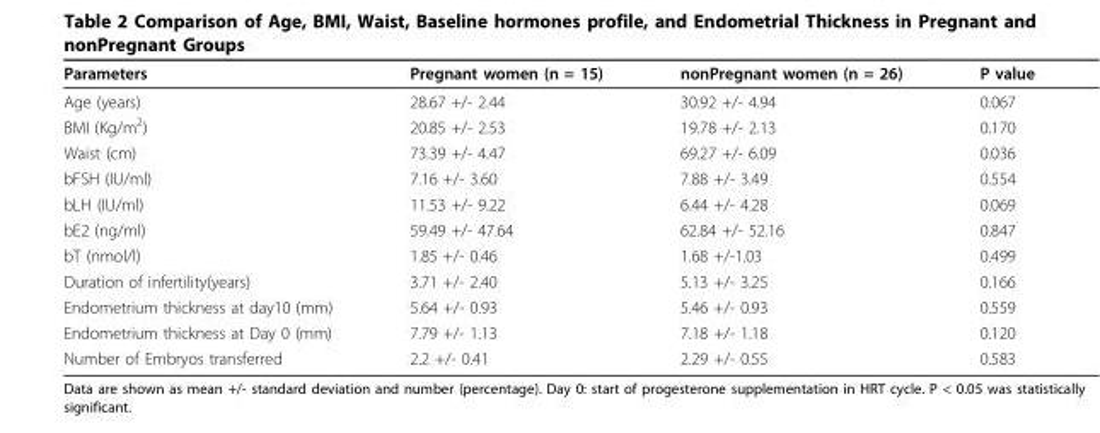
<table><thead><tr><td>Parameters</td><td>Pregnant women (n = 15)</td><td>nonPregnant women (n = 26)</td><td>P value</td></tr></thead><tbody><tr><td>Age (years)</td><td>28.67 +/- 2.44</td><td>30.92 +/- 4.94</td><td>0.067</td></tr><tr><td>BMI (Kg/m<sup>2</sup>)</td><td>20.85 +/- 2.53</td><td>19.78 +/- 2.13</td><td>0.170</td></tr><tr><td>Waist (cm)</td><td>73.39 +/- 4.47</td><td>69.27 +/- 6.09</td><td>0.036</td></tr><tr><td>bFSH (IU/ml)</td><td>7.16 +/- 3.60</td><td>7.88 +/- 3.49</td><td>0.554</td></tr><tr><td>bLH (IU/ml)</td><td>11.53 +/- 9.22</td><td>6.44 +/- 4.28</td><td>0.069</td></tr><tr><td>bE2 (ng/ml)</td><td>59.49 +/- 47.64</td><td>62.84 +/- 52.16</td><td>0.847</td></tr><tr><td>bT (nmol/l)</td><td>1.85 +/- 0.46</td><td>1.68 +/-1.03</td><td>0.499</td></tr><tr><td>Duration of infertility(years)</td><td>3.71 +/- 2.40</td><td>5.13 +/- 3.25</td><td>0.166</td></tr><tr><td>Endometrium thickness at day10 (mm)</td><td>5.64 +/- 0.93</td><td>5.46 +/- 0.93</td><td>0.559</td></tr><tr><td>Endometrium thickness at Day 0 (mm)</td><td>7.79 +/- 1.13</td><td>7.18 +/- 1.18</td><td>0.120</td></tr><tr><td>Number of Embryos transferred</td><td>2.2 +/- 0.41</td><td>2.29 +/- 0.55</td><td>0.583</td></tr></tbody></table>